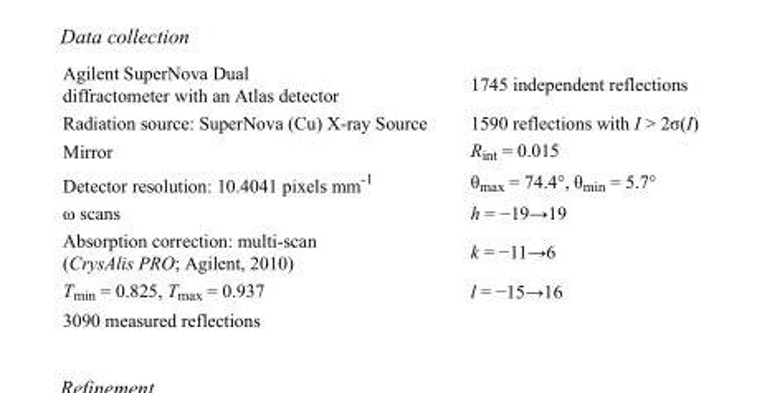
<table><tbody><tr><td>Agilent SuperNova Dual diffractometer with an Atlas detector</td><td>1745 independent reflections</td></tr><tr><td>Radiation source: SuperNova (Cu) X-ray Source</td><td>1590 reflections with I &gt; 2σ(I)</td></tr><tr><td>Mirror</td><td>R<sub>int</sub> = 0.015</td></tr><tr><td>Detector resolution: 10.4041 pixels mm<sup>-1</sup></td><td>θ<sub>max</sub> = 74.4°, θ<sub>min</sub> = 5.7°</td></tr><tr><td>ω scans</td><td>h = −19→19</td></tr><tr><td>Absorption correction: multi-scan (CrysAlis PRO; Agilent, 2010)</td><td>k = −11→6</td></tr><tr><td>T<sub>min</sub> = 0.825, T<sub>max</sub> = 0.937</td><td>l = −15→16</td></tr><tr><td>3090 measured reflections</td><td></td></tr></tbody></table>